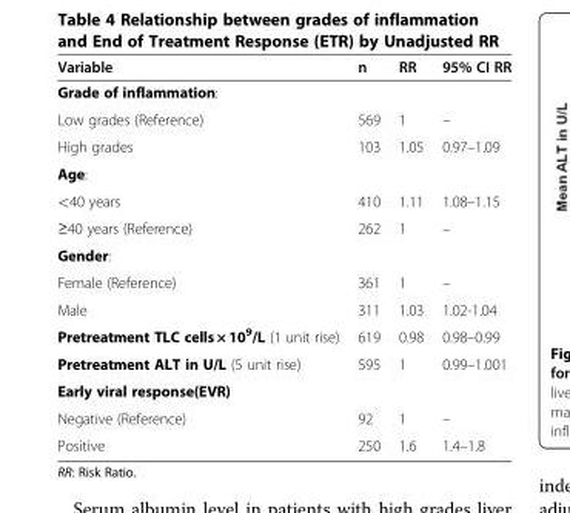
<table><thead><tr><td>Variable</td><td>n</td><td>RR</td><td>95% CI RR</td></tr></thead><tbody><tr><td colspan="4">Grade of inflammation:</td></tr><tr><td>Low grades (Reference)</td><td>569</td><td>1</td><td>–</td></tr><tr><td>High grades</td><td>103</td><td>1.05</td><td>0.97–1.09</td></tr><tr><td colspan="4">Age:</td></tr><tr><td>&lt;40 years</td><td>410</td><td>1.11</td><td>1.08–1.15</td></tr><tr><td>≥40 years (Reference)</td><td>262</td><td>1</td><td>–</td></tr><tr><td colspan="4">Gender:</td></tr><tr><td>Female (Reference)</td><td>361</td><td>1</td><td>–</td></tr><tr><td>Male</td><td>311</td><td>1.03</td><td>1.02-1.04</td></tr><tr><td>Pretreatment TLC cells × 10<sup>9</sup>/L (1 unit rise)</td><td>619</td><td>0.98</td><td>0.98–0.99</td></tr><tr><td>Pretreatment ALT in U/L (5 unit rise)</td><td>595</td><td>1</td><td>0.99–1.001</td></tr><tr><td colspan="4">Early viral response(EVR)</td></tr><tr><td>Negative (Reference)</td><td>92</td><td>1</td><td>–</td></tr><tr><td>Positive</td><td>250</td><td>1.6</td><td>1.4–1.8</td></tr></tbody></table>